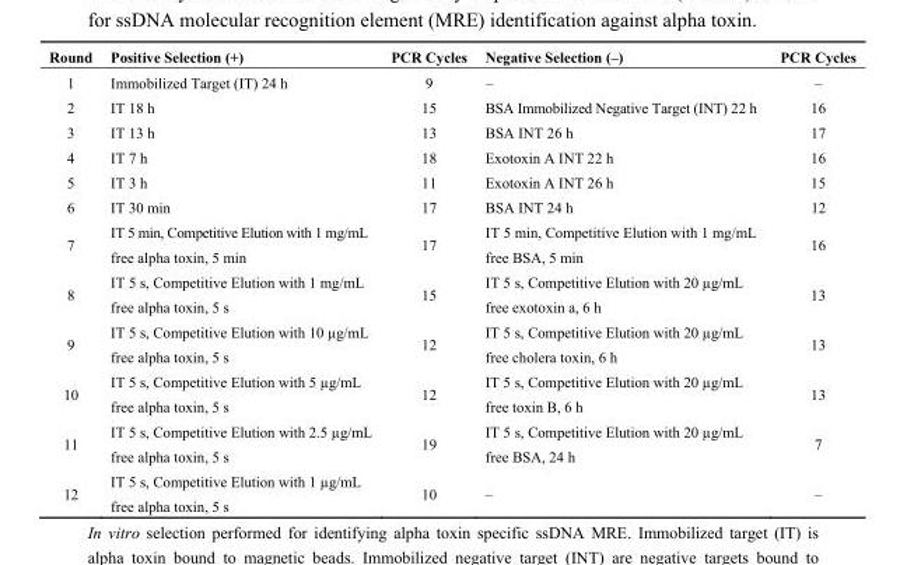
<table><thead><tr><td>Round</td><td>Positive Selection (+)</td><td>PCR Cycles</td><td>Negative Selection (–)</td><td>PCR Cycles</td></tr></thead><tbody><tr><td>1</td><td>Immobilized Target (IT) 24 h</td><td>9</td><td>–</td><td>–</td></tr><tr><td>2</td><td>IT 18 h</td><td>15</td><td>BSA Immobilized Negative Target (INT) 22 h</td><td>16</td></tr><tr><td>3</td><td>IT 13 h</td><td>13</td><td>BSA INT 26 h</td><td>17</td></tr><tr><td>4</td><td>IT 7 h</td><td>18</td><td>Exotoxin A INT 22 h</td><td>16</td></tr><tr><td>5</td><td>IT 3 h</td><td>11</td><td>Exotoxin A INT 26 h</td><td>15</td></tr><tr><td>6</td><td>IT 30 min</td><td>17</td><td>BSA INT 24 h</td><td>12</td></tr><tr><td>7</td><td>IT 5 min, Competitive Elution with 1 mg/mL free alpha toxin, 5 min</td><td>17</td><td>IT 5 min, Competitive Elution with 1 mg/mL free BSA, 5 min</td><td>16</td></tr><tr><td>8</td><td>IT 5 s, Competitive Elution with 1 mg/mL free alpha toxin, 5 s</td><td>15</td><td>IT 5 s, Competitive Elution with 20 µg/mL free exotoxin a, 6 h</td><td>13</td></tr><tr><td>9</td><td>IT 5 s, Competitive Elution with 10 µg/mL free alpha toxin, 5 s</td><td>12</td><td>IT 5 s, Competitive Elution with 20 µg/mL free cholera toxin, 6 h</td><td>13</td></tr><tr><td>10</td><td>IT 5 s, Competitive Elution with 5 µg/mL free alpha toxin, 5 s</td><td>12</td><td>IT 5 s, Competitive Elution with 20 µg/mL free toxin B, 6 h</td><td>13</td></tr><tr><td>11</td><td>IT 5 s, Competitive Elution with 2.5 µg/mL free alpha toxin, 5 s</td><td>19</td><td>IT 5 s, Competitive Elution with 20 µg/mL free BSA, 24 h</td><td>7</td></tr><tr><td>12</td><td>IT 5 s, Competitive Elution with 1 µg/mL free alpha toxin, 5 s</td><td>10</td><td>–</td><td>–</td></tr></tbody></table>